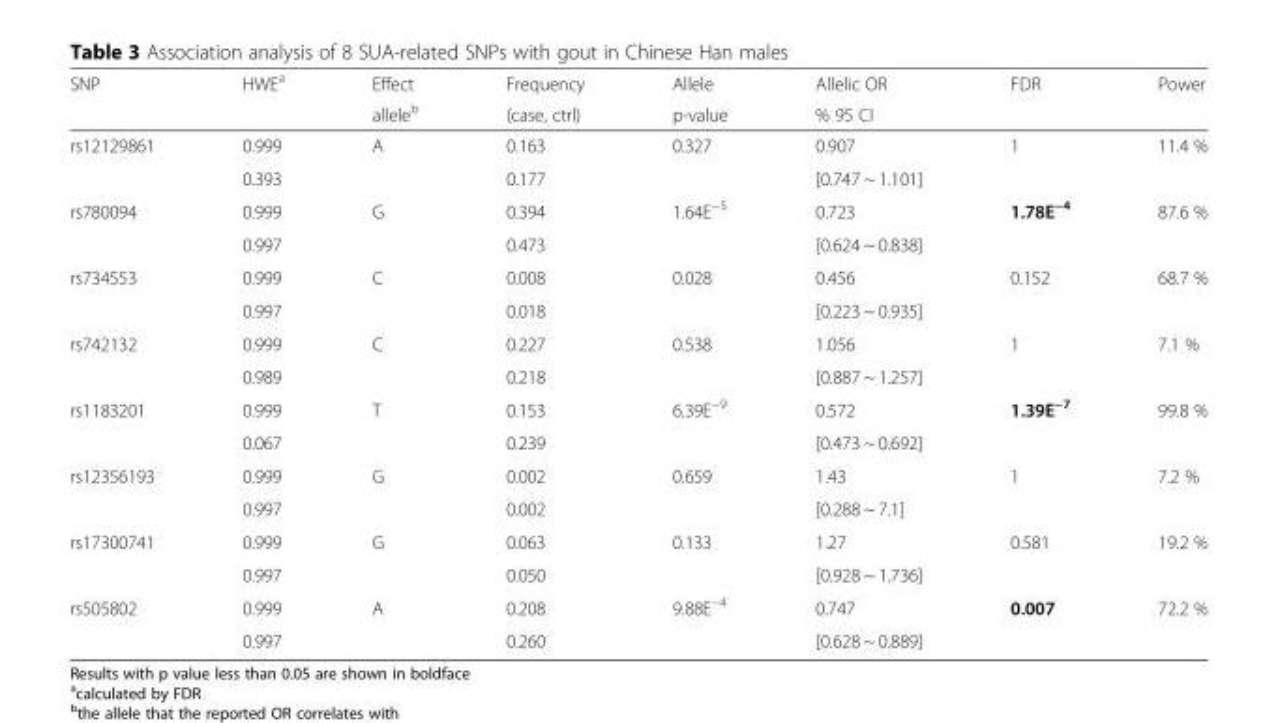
<table><thead><tr><td rowspan="2">SNP</td><td rowspan="2">HWE<sup>a</sup></td><td rowspan="2">Effect allele<sup>b</sup></td><td rowspan="2">Frequency (case, ctrl)</td><td rowspan="2">Allele p-value</td><td rowspan="2">Allelic OR % 95 CI</td><td rowspan="2">FDR</td><td rowspan="2">Power</td></tr><tr></tr></thead><tbody><tr><td rowspan="2">rs12129861</td><td>0.999</td><td>A</td><td>0.163</td><td>0.327</td><td>0.907</td><td>1</td><td>11.4 %</td></tr><tr><td>0.393</td><td></td><td>0.177</td><td></td><td>[0.747 ~ 1.101]</td><td></td><td></td></tr><tr><td rowspan="2">rs780094</td><td>0.999</td><td>G</td><td>0.394</td><td>1.64E<sup>−5</sup></td><td>0.723</td><td>1.78E<sup>−4</sup></td><td>87.6 %</td></tr><tr><td>0.997</td><td></td><td>0.473</td><td></td><td>[0.624 ~ 0.838]</td><td></td><td></td></tr><tr><td rowspan="2">rs734553</td><td>0.999</td><td>C</td><td>0.008</td><td>0.028</td><td>0.456</td><td>0.152</td><td>68.7 %</td></tr><tr><td>0.997</td><td></td><td>0.018</td><td></td><td>[0.223 ~ 0.935]</td><td></td><td></td></tr><tr><td rowspan="2">rs742132</td><td>0.999</td><td>C</td><td>0.227</td><td>0.538</td><td>1.056</td><td>1</td><td>7.1 %</td></tr><tr><td>0.989</td><td></td><td>0.218</td><td></td><td>[0.887 ~ 1.257]</td><td></td><td></td></tr><tr><td rowspan="2">rs1183201</td><td>0.999</td><td>T</td><td>0.153</td><td>6.39E<sup>−9</sup></td><td>0.572</td><td>1.39E<sup>−7</sup></td><td>99.8 %</td></tr><tr><td>0.067</td><td></td><td>0.239</td><td></td><td>[0.473 ~ 0.692]</td><td></td><td></td></tr><tr><td rowspan="2">rs12356193</td><td>0.999</td><td>G</td><td>0.002</td><td>0.659</td><td>1.43</td><td>1</td><td>7.2 %</td></tr><tr><td>0.997</td><td></td><td>0.002</td><td></td><td>[0.288 ~ 7.1]</td><td></td><td></td></tr><tr><td rowspan="2">rs17300741</td><td>0.999</td><td>G</td><td>0.063</td><td>0.133</td><td>1.27</td><td>0.581</td><td>19.2 %</td></tr><tr><td>0.997</td><td></td><td>0.050</td><td></td><td>[0.928 ~ 1.736]</td><td></td><td></td></tr><tr><td rowspan="2">rs505802</td><td>0.999</td><td>A</td><td>0.208</td><td>9.88E<sup>−4</sup></td><td>0.747</td><td>0.007</td><td>72.2 %</td></tr><tr><td>0.997</td><td></td><td>0.260</td><td></td><td>[0.628 ~ 0.889]</td><td></td><td></td></tr></tbody></table>